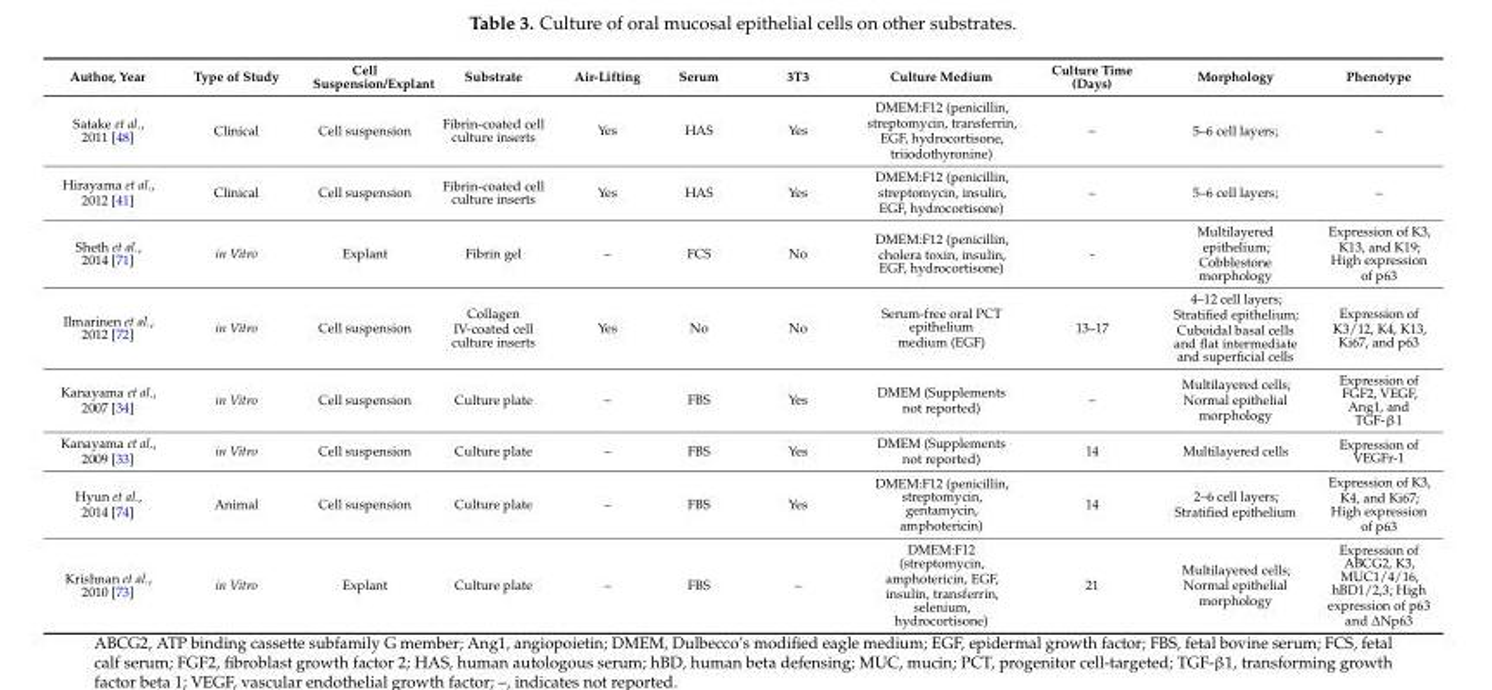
<table><thead><tr><td>Author, Year</td><td>Type of Study</td><td>Cell Suspension/Explant</td><td>Substrate</td><td>Air-Lifting</td><td>Serum</td><td>3T3</td><td>Culture Medium</td><td>Culture Time (Days)</td><td>Morphology</td><td>Phenotype</td></tr></thead><tbody><tr><td>Satake et al., 2011 [48]</td><td>Clinical</td><td>Cell suspension</td><td>Fibrin-coated cell culture inserts</td><td>Yes</td><td>HAS</td><td>Yes</td><td>DMEM:F12 (penicillin, streptomycin, transferrin, EGF, hydrocortisone, triiodothyronine)</td><td>–</td><td>5–6 cell layers;</td><td>–</td></tr><tr><td>Hirayama et al., 2012 [41]</td><td>Clinical</td><td>Cell suspension</td><td>Fibrin-coated cell culture inserts</td><td>Yes</td><td>HAS</td><td>Yes</td><td>DMEM:F12 (penicillin, streptomycin, insulin, EGF, hydrocortisone)</td><td>–</td><td>5–6 cell layers;</td><td>–</td></tr><tr><td>Sheth et al., 2014 [71]</td><td>in Vitro</td><td>Explant</td><td>Fibrin gel</td><td>–</td><td>FCS</td><td>No</td><td>DMEM:F12 (penicillin, cholera toxin, insulin, EGF, hydrocortisone)</td><td>-</td><td>Multilayered epithelium; Cobblestone morphology</td><td>Expression of K3, K13, and K19; High expression of p63</td></tr><tr><td>Ilmarinen et al., 2012 [72]</td><td>in Vitro</td><td>Cell suspension</td><td>Collagen IV-coated cell culture inserts</td><td>Yes</td><td>No</td><td>No</td><td>Serum-free oral PCT epithelium medium (EGF)</td><td>13–17</td><td>4–12 cell layers; Stratified epithelium; Cuboidal basal cells and flat intermediate and superficial cells</td><td>Expression of K3/12, K4, K13, Ki67, and p63</td></tr><tr><td>Kanayama et al., 2007 [34]</td><td>in Vitro</td><td>Cell suspension</td><td>Culture plate</td><td>–</td><td>FBS</td><td>Yes</td><td>DMEM (Supplements not reported)</td><td>–</td><td>Multilayered cells; Normal epithelial morphology</td><td>Expression of FGF2, VEGF, Ang1, and TGF-β1</td></tr><tr><td>Kanayama et al., 2009 [33]</td><td>in Vitro</td><td>Cell suspension</td><td>Culture plate</td><td>–</td><td>FBS</td><td>Yes</td><td>DMEM (Supplements not reported)</td><td>14</td><td>Multilayered cells</td><td>Expression of VEGFr-1</td></tr><tr><td>Hyun et al., 2014 [74]</td><td>Animal</td><td>Cell suspension</td><td>Culture plate</td><td>–</td><td>FBS</td><td>Yes</td><td>DMEM:F12 (penicillin, streptomycin, gentamycin, amphotericin)</td><td>14</td><td>2–6 cell layers; Stratified epithelium</td><td>Expression of K3, K4, and Ki67; High expression of p63</td></tr><tr><td>Krishnan et al., 2010 [73]</td><td>in Vitro</td><td>Explant</td><td>Culture plate</td><td>–</td><td>FBS</td><td>–</td><td>DMEM:F12 (streptomycin, amphotericin, EGF, insulin, transferrin, selenium, hydrocortisone)</td><td>21</td><td>Multilayered cells; Normal epithelial morphology</td><td>Expression of ABCG2, K3, MUC1/4/16, hBD1/2,3; High expression of p63 and ∆Np63</td></tr></tbody></table>